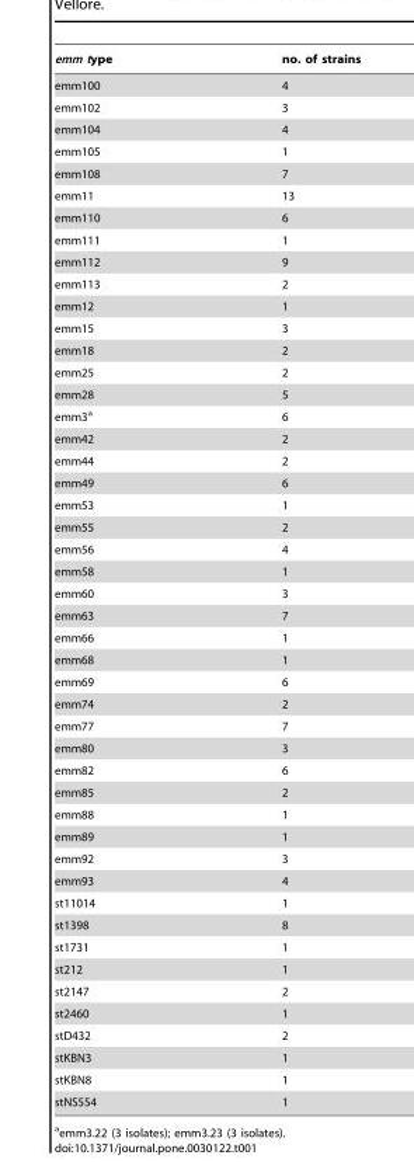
<table><thead><tr><td>emm type</td><td>no. of strains</td></tr></thead><tbody><tr><td>emm100</td><td>4</td></tr><tr><td>emm102</td><td>3</td></tr><tr><td>emm104</td><td>4</td></tr><tr><td>emm105</td><td>1</td></tr><tr><td>emm108</td><td>7</td></tr><tr><td>emm11</td><td>13</td></tr><tr><td>emm110</td><td>6</td></tr><tr><td>emm111</td><td>1</td></tr><tr><td>emm112</td><td>9</td></tr><tr><td>emm113</td><td>2</td></tr><tr><td>emm12</td><td>1</td></tr><tr><td>emm15</td><td>3</td></tr><tr><td>emm18</td><td>2</td></tr><tr><td>emm25</td><td>2</td></tr><tr><td>emm28</td><td>5</td></tr><tr><td>emm3<sup>a</sup></td><td>6</td></tr><tr><td>emm42</td><td>2</td></tr><tr><td>emm44</td><td>2</td></tr><tr><td>emm49</td><td>6</td></tr><tr><td>emm53</td><td>1</td></tr><tr><td>emm55</td><td>2</td></tr><tr><td>emm56</td><td>4</td></tr><tr><td>emm58</td><td>1</td></tr><tr><td>emm60</td><td>3</td></tr><tr><td>emm63</td><td>7</td></tr><tr><td>emm66</td><td>1</td></tr><tr><td>emm68</td><td>1</td></tr><tr><td>emm69</td><td>6</td></tr><tr><td>emm74</td><td>2</td></tr><tr><td>emm77</td><td>7</td></tr><tr><td>emm80</td><td>3</td></tr><tr><td>emm82</td><td>6</td></tr><tr><td>emm85</td><td>2</td></tr><tr><td>emm88</td><td>1</td></tr><tr><td>emm89</td><td>1</td></tr><tr><td>emm92</td><td>3</td></tr><tr><td>emm93</td><td>4</td></tr><tr><td>st11014</td><td>1</td></tr><tr><td>st1398</td><td>8</td></tr><tr><td>st1731</td><td>1</td></tr><tr><td>st212</td><td>1</td></tr><tr><td>st2147</td><td>2</td></tr><tr><td>st2460</td><td>1</td></tr><tr><td>stD432</td><td>2</td></tr><tr><td>stKBN3</td><td>1</td></tr><tr><td>stKBN8</td><td>1</td></tr><tr><td>stNS554</td><td>1</td></tr></tbody></table>